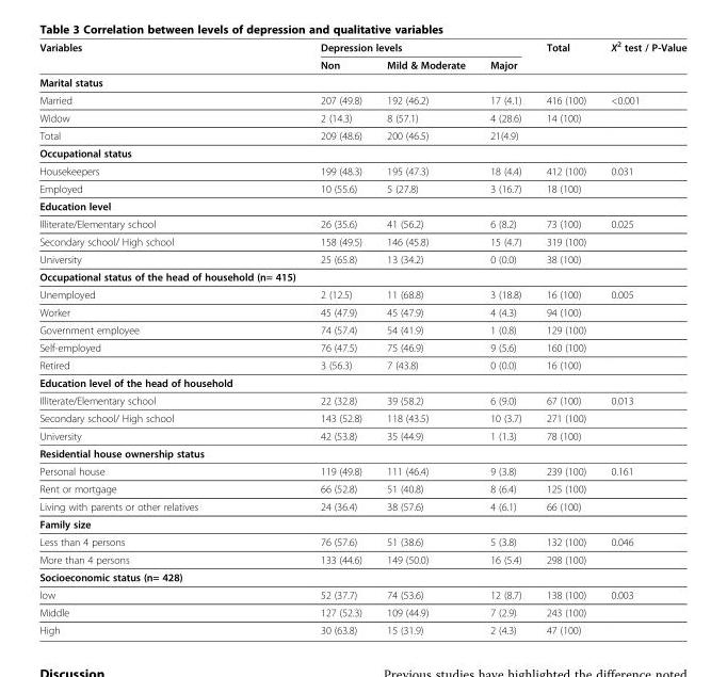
<table><thead><tr><td rowspan="2">Variables</td><td colspan="3">Depression levels</td><td rowspan="2">Total</td><td rowspan="2">X2 test / P-Value</td></tr><tr><td>Non</td><td>Mild &amp; Moderate</td><td>Major</td></tr></thead><tbody><tr><td colspan="6">Marital status</td></tr><tr><td>Married</td><td>207 (49.8)</td><td>192 (46.2)</td><td>17 (4.1)</td><td>416 (100)</td><td>&lt;0.001</td></tr><tr><td>Widow</td><td>2 (14.3)</td><td>8 (57.1)</td><td>4 (28.6)</td><td>14 (100)</td><td></td></tr><tr><td>Total</td><td>209 (48.6)</td><td>200 (46.5)</td><td>21(4.9)</td><td></td><td></td></tr><tr><td colspan="6">Occupational status</td></tr><tr><td>Housekeepers</td><td>199 (48.3)</td><td>195 (47.3)</td><td>18 (4.4)</td><td>412 (100)</td><td>0.031</td></tr><tr><td>Employed</td><td>10 (55.6)</td><td>5 (27.8)</td><td>3 (16.7)</td><td>18 (100)</td><td></td></tr><tr><td colspan="6">Education level</td></tr><tr><td>Illiterate/Elementary school</td><td>26 (35.6)</td><td>41 (56.2)</td><td>6 (8.2)</td><td>73 (100)</td><td>0.025</td></tr><tr><td>Secondary school/ High school</td><td>158 (49.5)</td><td>146 (45.8)</td><td>15 (4.7)</td><td>319 (100)</td><td></td></tr><tr><td>University</td><td>25 (65.8)</td><td>13 (34.2)</td><td>0 (0.0)</td><td>38 (100)</td><td></td></tr><tr><td colspan="6">Occupational status of the head of household (n= 415)</td></tr><tr><td>Unemployed</td><td>2 (12.5)</td><td>11 (68.8)</td><td>3 (18.8)</td><td>16 (100)</td><td>0.005</td></tr><tr><td>Worker</td><td>45 (47.9)</td><td>45 (47.9)</td><td>4 (4.3)</td><td>94 (100)</td><td></td></tr><tr><td>Government employee</td><td>74 (57.4)</td><td>54 (41.9)</td><td>1 (0.8)</td><td>129 (100)</td><td></td></tr><tr><td>Self-employed</td><td>76 (47.5)</td><td>75 (46.9)</td><td>9 (5.6)</td><td>160 (100)</td><td></td></tr><tr><td>Retired</td><td>3 (56.3)</td><td>7 (43.8)</td><td>0 (0.0)</td><td>16 (100)</td><td></td></tr><tr><td colspan="6">Education level of the head of household</td></tr><tr><td>Illiterate/Elementary school</td><td>22 (32.8)</td><td>39 (58.2)</td><td>6 (9.0)</td><td>67 (100)</td><td>0.013</td></tr><tr><td>Secondary school/ High school</td><td>143 (52.8)</td><td>118 (43.5)</td><td>10 (3.7)</td><td>271 (100)</td><td></td></tr><tr><td>University</td><td>42 (53.8)</td><td>35 (44.9)</td><td>1 (1.3)</td><td>78 (100)</td><td></td></tr><tr><td colspan="6">Residential house ownership status</td></tr><tr><td>Personal house</td><td>119 (49.8)</td><td>111 (46.4)</td><td>9 (3.8)</td><td>239 (100)</td><td>0.161</td></tr><tr><td>Rent or mortgage</td><td>66 (52.8)</td><td>51 (40.8)</td><td>8 (6.4)</td><td>125 (100)</td><td></td></tr><tr><td>Living with parents or other relatives</td><td>24 (36.4)</td><td>38 (57.6)</td><td>4 (6.1)</td><td>66 (100)</td><td></td></tr><tr><td colspan="6">Family size</td></tr><tr><td>Less than 4 persons</td><td>76 (57.6)</td><td>51 (38.6)</td><td>5 (3.8)</td><td>132 (100)</td><td>0.046</td></tr><tr><td>More than 4 persons</td><td>133 (44.6)</td><td>149 (50.0)</td><td>16 (5.4)</td><td>298 (100)</td><td></td></tr><tr><td colspan="6">Socioeconomic status (n= 428)</td></tr><tr><td>low</td><td>52 (37.7)</td><td>74 (53.6)</td><td>12 (8.7)</td><td>138 (100)</td><td>0.003</td></tr><tr><td>Middle</td><td>127 (52.3)</td><td>109 (44.9)</td><td>7 (2.9)</td><td>243 (100)</td><td></td></tr><tr><td>High</td><td>30 (63.8)</td><td>15 (31.9)</td><td>2 (4.3)</td><td>47 (100)</td><td></td></tr></tbody></table>